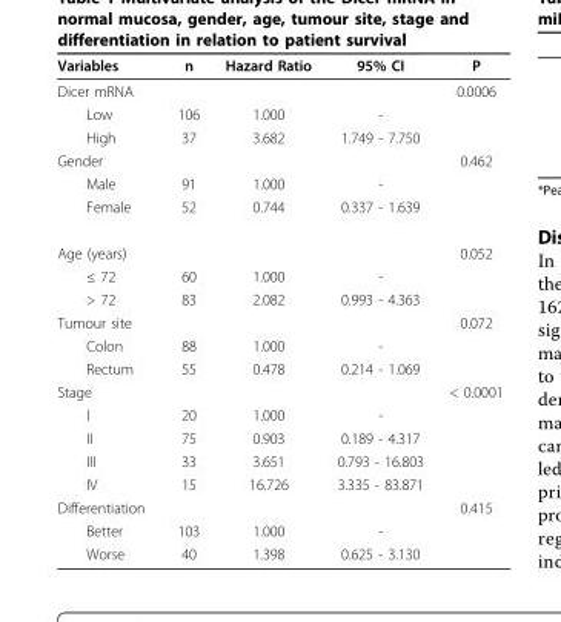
<table><thead><tr><td>Variables</td><td>n</td><td>Hazard Ratio</td><td>95% CI</td><td>P</td></tr></thead><tbody><tr><td>Dicer mRNA</td><td></td><td></td><td></td><td>0.0006</td></tr><tr><td>Low</td><td>106</td><td>1.000</td><td>-</td><td></td></tr><tr><td>High</td><td>37</td><td>3.682</td><td>1.749 - 7.750</td><td></td></tr><tr><td>Gender</td><td></td><td></td><td></td><td>0.462</td></tr><tr><td>Male</td><td>91</td><td>1.000</td><td>-</td><td></td></tr><tr><td>Female</td><td>52</td><td>0.744</td><td>0.337 - 1.639</td><td></td></tr><tr><td>Age (years)</td><td></td><td></td><td></td><td>0.052</td></tr><tr><td>≤ 72</td><td>60</td><td>1.000</td><td>-</td><td></td></tr><tr><td>&gt; 72</td><td>83</td><td>2.082</td><td>0.993 - 4.363</td><td></td></tr><tr><td>Tumour site</td><td></td><td></td><td></td><td>0.072</td></tr><tr><td>Colon</td><td>88</td><td>1.000</td><td>-</td><td></td></tr><tr><td>Rectum</td><td>55</td><td>0.478</td><td>0.214 - 1.069</td><td></td></tr><tr><td>Stage</td><td></td><td></td><td></td><td>&lt; 0.0001</td></tr><tr><td>I</td><td>20</td><td>1.000</td><td>-</td><td></td></tr><tr><td>II</td><td>75</td><td>0.903</td><td>0.189 - 4.317</td><td></td></tr><tr><td>III</td><td>33</td><td>3.651</td><td>0.793 - 16.803</td><td></td></tr><tr><td>IV</td><td>15</td><td>16.726</td><td>3.335 - 83.871</td><td></td></tr><tr><td>Differentiation</td><td></td><td></td><td></td><td>0.415</td></tr><tr><td>Better</td><td>103</td><td>1.000</td><td>-</td><td></td></tr><tr><td>Worse</td><td>40</td><td>1.398</td><td>0.625 - 3.130</td><td></td></tr></tbody></table>